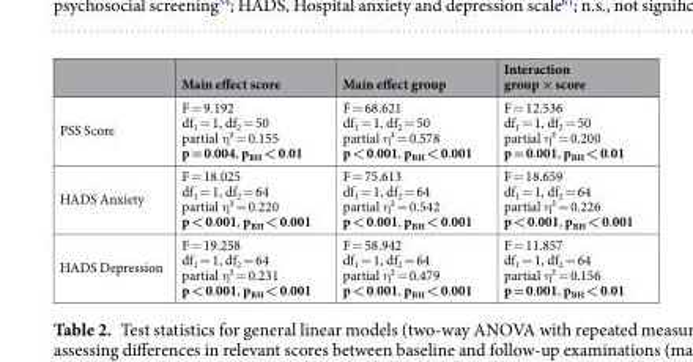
<table><thead><tr><td></td><td>Main effect score</td><td>Main effect group</td><td>Interaction group × score</td></tr></thead><tbody><tr><td>PSS Score</td><td>F = 9.192 df<sub>1</sub> = 1, df<sub>2</sub> = 50 partial η² = 0.155 p = 0.004, p<sub>BH</sub> &lt; 0.01</td><td>F = 68.621 df<sub>1</sub> = 1, df<sub>2</sub> = 50 partial η² = 0.578 p &lt; 0.001, p<sub>BH</sub> &lt; 0.001</td><td>F = 12.536 df<sub>1</sub> = 1, df<sub>2</sub> = 50 partial η² = 0.200 p = 0.001, p<sub>BH</sub> &lt; 0.01</td></tr><tr><td>HADS Anxiety</td><td>F = 18.025 df<sub>1</sub> = 1, df<sub>2</sub> = 64 partial η² = 0.220 p &lt; 0.001, p<sub>BH</sub> &lt; 0.001</td><td>F = 75.613 df<sub>1</sub> = 1, df<sub>2</sub> = 64 partial η² = 0.542 p &lt; 0.001, p<sub>BH</sub> &lt; 0.001</td><td>F = 18.659 df<sub>1</sub> = 1, df<sub>2</sub> = 64 partial η² = 0.226 p &lt; 0.001, p<sub>BH</sub> &lt; 0.001</td></tr><tr><td>HADS Depression</td><td>F = 19.258 df<sub>1</sub> = 1, df<sub>2</sub> = 64 partial η² = 0.231 p &lt; 0.001, p<sub>BH</sub> &lt; 0.001</td><td>F = 58.942 df<sub>1</sub> = 1, df<sub>2</sub> = 64 partial η² = 0.479 p &lt; 0.001, p<sub>BH</sub> &lt; 0.001</td><td>F = 11.857 df<sub>1</sub> = 1, df<sub>2</sub> = 64 partial η² = 0.156 p = 0.001, p<sub>BH</sub> &lt; 0.01</td></tr></tbody></table>